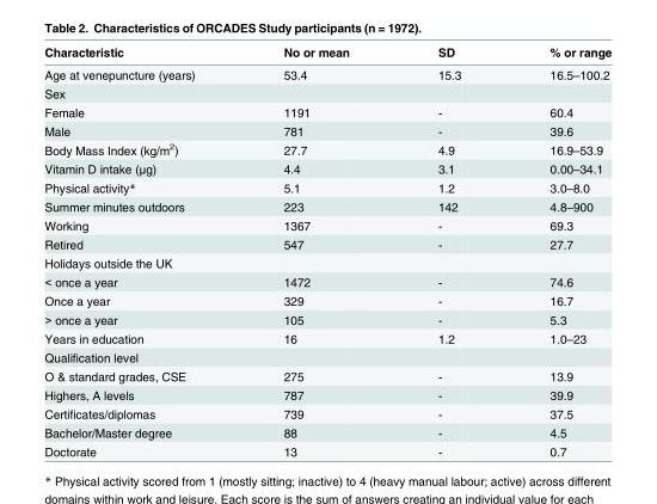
<table><thead><tr><td>Characteristic</td><td>No or mean</td><td>SD</td><td>% or range</td></tr></thead><tbody><tr><td>Age at venepuncture (years)</td><td>53.4</td><td>15.3</td><td>16.5–100.2</td></tr><tr><td colspan="4">Sex</td></tr><tr><td>Female</td><td>1191</td><td>-</td><td>60.4</td></tr><tr><td>Male</td><td>781</td><td>-</td><td>39.6</td></tr><tr><td>Body Mass Index (kg/m<sup>2</sup>)</td><td>27.7</td><td>4.9</td><td>16.9–53.9</td></tr><tr><td>Vitamin D intake (μg)</td><td>4.4</td><td>3.1</td><td>0.00–34.1</td></tr><tr><td>Physical activity*</td><td>5.1</td><td>1.2</td><td>3.0–8.0</td></tr><tr><td>Summer minutes outdoors</td><td>223</td><td>142</td><td>4.8–900</td></tr><tr><td>Working</td><td>1367</td><td>-</td><td>69.3</td></tr><tr><td>Retired</td><td>547</td><td>-</td><td>27.7</td></tr><tr><td colspan="4">Holidays outside the UK</td></tr><tr><td>&lt; once a year</td><td>1472</td><td>-</td><td>74.6</td></tr><tr><td>Once a year</td><td>329</td><td>-</td><td>16.7</td></tr><tr><td>&gt; once a year</td><td>105</td><td>-</td><td>5.3</td></tr><tr><td>Years in education</td><td>16</td><td>1.2</td><td>1.0–23</td></tr><tr><td colspan="4">Qualification level</td></tr><tr><td>O &amp; standard grades, CSE</td><td>275</td><td>-</td><td>13.9</td></tr><tr><td>Highers, A levels</td><td>787</td><td>-</td><td>39.9</td></tr><tr><td>Certificates/diplomas</td><td>739</td><td>-</td><td>37.5</td></tr><tr><td>Bachelor/Master degree</td><td>88</td><td>-</td><td>4.5</td></tr><tr><td>Doctorate</td><td>13</td><td>-</td><td>0.7</td></tr></tbody></table>